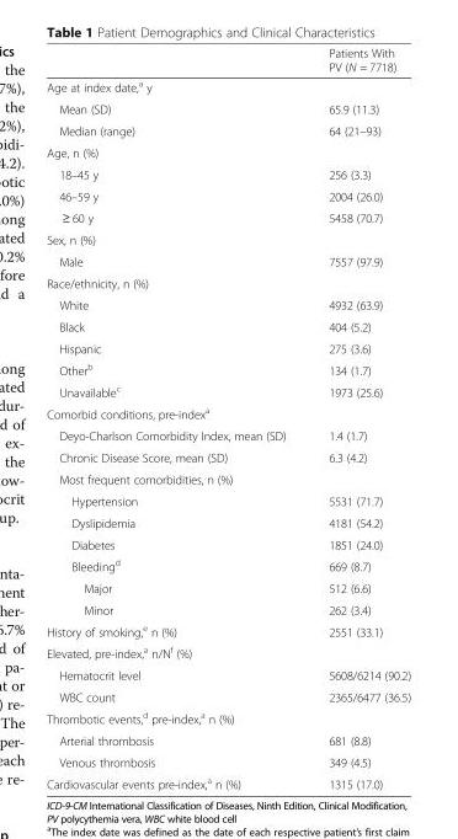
<table><thead><tr><td></td><td>Patients With PV (N = 7718)</td></tr></thead><tbody><tr><td colspan="2">Age at index date,<sup>a</sup> y</td></tr><tr><td>Mean (SD)</td><td>65.9 (11.3)</td></tr><tr><td>Median (range)</td><td>64 (21–93)</td></tr><tr><td colspan="2">Age, n (%)</td></tr><tr><td>18–45 y</td><td>256 (3.3)</td></tr><tr><td>46–59 y</td><td>2004 (26.0)</td></tr><tr><td>≥ 60 y</td><td>5458 (70.7)</td></tr><tr><td colspan="2">Sex, n (%)</td></tr><tr><td>Male</td><td>7557 (97.9)</td></tr><tr><td colspan="2">Race/ethnicity, n (%)</td></tr><tr><td>White</td><td>4932 (63.9)</td></tr><tr><td>Black</td><td>404 (5.2)</td></tr><tr><td>Hispanic</td><td>275 (3.6)</td></tr><tr><td>Other<sup>b</sup></td><td>134 (1.7)</td></tr><tr><td>Unavailable<sup>c</sup></td><td>1973 (25.6)</td></tr><tr><td colspan="2">Comorbid conditions, pre-index<sup>a</sup></td></tr><tr><td>Deyo-Charlson Comorbidity Index, mean (SD)</td><td>1.4 (1.7)</td></tr><tr><td>Chronic Disease Score, mean (SD)</td><td>6.3 (4.2)</td></tr><tr><td colspan="2">Most frequent comorbidities, n (%)</td></tr><tr><td>Hypertension</td><td>5531 (71.7)</td></tr><tr><td>Dyslipidemia</td><td>4181 (54.2)</td></tr><tr><td>Diabetes</td><td>1851 (24.0)</td></tr><tr><td>Bleeding<sup>d</sup></td><td>669 (8.7)</td></tr><tr><td>Major</td><td>512 (6.6)</td></tr><tr><td>Minor</td><td>262 (3.4)</td></tr><tr><td>History of smoking,<sup>e</sup> n (%)</td><td>2551 (33.1)</td></tr><tr><td colspan="2">Elevated, pre-index,<sup>a</sup> n/N<sup>f</sup> (%)</td></tr><tr><td>Hematocrit level</td><td>5608/6214 (90.2)</td></tr><tr><td>WBC count</td><td>2365/6477 (36.5)</td></tr><tr><td colspan="2">Thrombotic events,<sup>d</sup> pre-index,<sup>a</sup> n (%)</td></tr><tr><td>Arterial thrombosis</td><td>681 (8.8)</td></tr><tr><td>Venous thrombosis</td><td>349 (4.5)</td></tr><tr><td>Cardiovascular events pre-index,<sup>a</sup> n (%)</td><td>1315 (17.0)</td></tr></tbody></table>